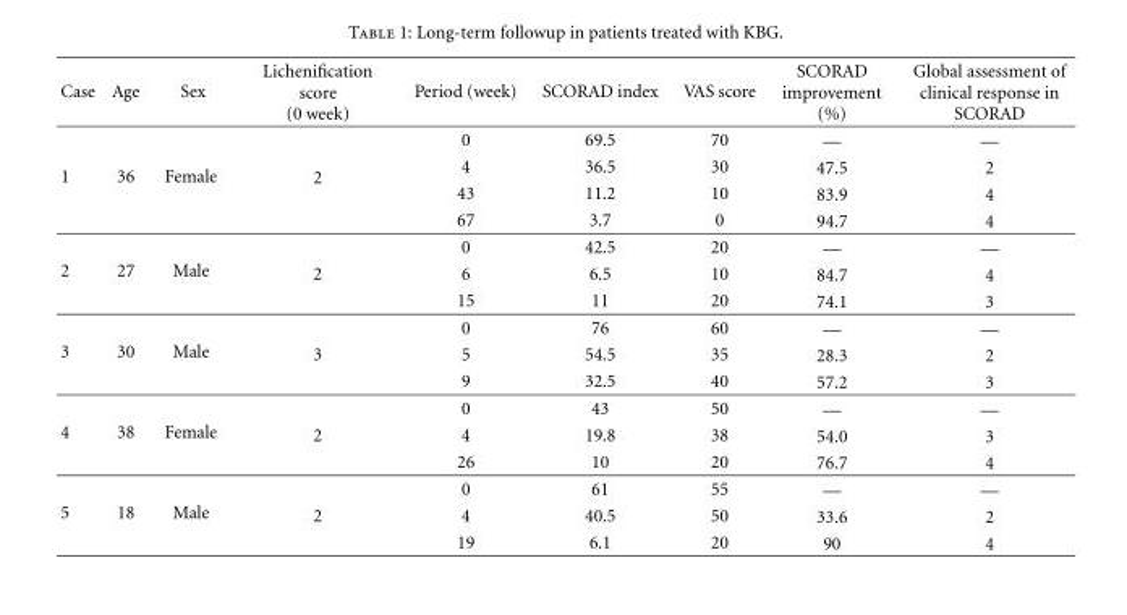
<table><thead><tr><td>Case</td><td>Age</td><td>Sex</td><td>Lichenification score (0 week)</td><td>Period (week)</td><td>SCORAD index</td><td>VAS score</td><td>SCORAD improvement (%)</td><td>Global assessment of clinical response in SCORAD</td></tr></thead><tbody><tr><td rowspan="4">1</td><td rowspan="4">36</td><td rowspan="4">Female</td><td rowspan="4">2</td><td>0</td><td>69.5</td><td>70</td><td>—</td><td>—</td></tr><tr><td>4</td><td>36.5</td><td>30</td><td>47.5</td><td>2</td></tr><tr><td>43</td><td>11.2</td><td>10</td><td>83.9</td><td>4</td></tr><tr><td>67</td><td>3.7</td><td>0</td><td>94.7</td><td>4</td></tr><tr><td rowspan="3">2</td><td rowspan="3">27</td><td rowspan="3">Male</td><td rowspan="3">2</td><td>0</td><td>42.5</td><td>20</td><td>—</td><td>—</td></tr><tr><td>6</td><td>6.5</td><td>10</td><td>84.7</td><td>4</td></tr><tr><td>15</td><td>11</td><td>20</td><td>74.1</td><td>3</td></tr><tr><td rowspan="3">3</td><td rowspan="3">30</td><td rowspan="3">Male</td><td rowspan="3">3</td><td>0</td><td>76</td><td>60</td><td>—</td><td>—</td></tr><tr><td>5</td><td>54.5</td><td>35</td><td>28.3</td><td>2</td></tr><tr><td>9</td><td>32.5</td><td>40</td><td>57.2</td><td>3</td></tr><tr><td rowspan="3">4</td><td rowspan="3">38</td><td rowspan="3">Female</td><td rowspan="3">2</td><td>0</td><td>43</td><td>50</td><td>—</td><td>—</td></tr><tr><td>4</td><td>19.8</td><td>38</td><td>54.0</td><td>3</td></tr><tr><td>26</td><td>10</td><td>20</td><td>76.7</td><td>4</td></tr><tr><td rowspan="3">5</td><td rowspan="3">18</td><td rowspan="3">Male</td><td rowspan="3">2</td><td>0</td><td>61</td><td>55</td><td>—</td><td>—</td></tr><tr><td>4</td><td>40.5</td><td>50</td><td>33.6</td><td>2</td></tr><tr><td>19</td><td>6.1</td><td>20</td><td>90</td><td>4</td></tr></tbody></table>